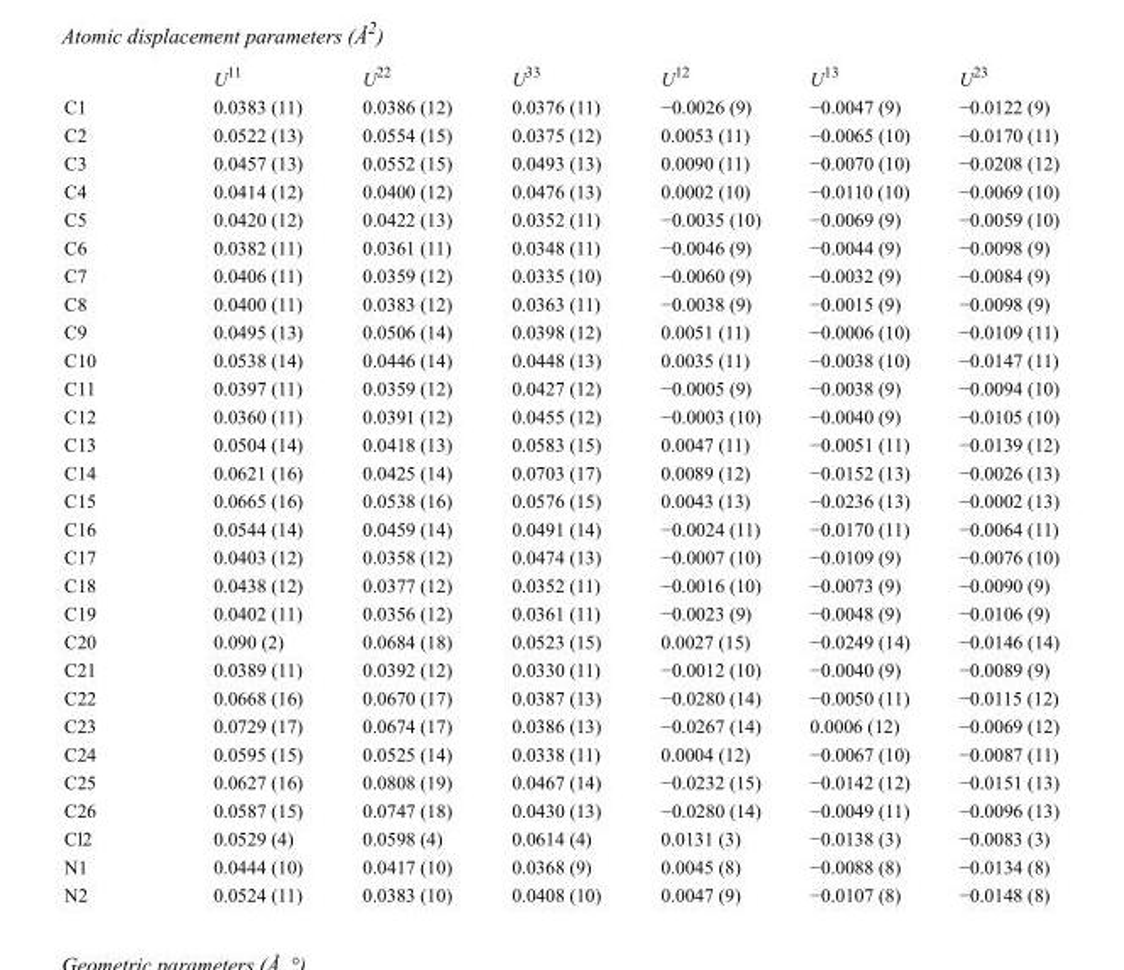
<table><thead><tr><td></td><td>U<sup>11</sup></td><td>U<sup>22</sup></td><td>U<sup>33</sup></td><td>U<sup>12</sup></td><td>U<sup>13</sup></td><td>U<sup>23</sup></td></tr></thead><tbody><tr><td>C1</td><td>0.0383 (11)</td><td>0.0386 (12)</td><td>0.0376 (11)</td><td>−0.0026 (9)</td><td>−0.0047 (9)</td><td>−0.0122 (9)</td></tr><tr><td>C2</td><td>0.0522 (13)</td><td>0.0554 (15)</td><td>0.0375 (12)</td><td>0.0053 (11)</td><td>−0.0065 (10)</td><td>−0.0170 (11)</td></tr><tr><td>C3</td><td>0.0457 (13)</td><td>0.0552 (15)</td><td>0.0493 (13)</td><td>0.0090 (11)</td><td>−0.0070 (10)</td><td>−0.0208 (12)</td></tr><tr><td>C4</td><td>0.0414 (12)</td><td>0.0400 (12)</td><td>0.0476 (13)</td><td>0.0002 (10)</td><td>−0.0110 (10)</td><td>−0.0069 (10)</td></tr><tr><td>C5</td><td>0.0420 (12)</td><td>0.0422 (13)</td><td>0.0352 (11)</td><td>−0.0035 (10)</td><td>−0.0069 (9)</td><td>−0.0059 (10)</td></tr><tr><td>C6</td><td>0.0382 (11)</td><td>0.0361 (11)</td><td>0.0348 (11)</td><td>−0.0046 (9)</td><td>−0.0044 (9)</td><td>−0.0098 (9)</td></tr><tr><td>C7</td><td>0.0406 (11)</td><td>0.0359 (12)</td><td>0.0335 (10)</td><td>−0.0060 (9)</td><td>−0.0032 (9)</td><td>−0.0084 (9)</td></tr><tr><td>C8</td><td>0.0400 (11)</td><td>0.0383 (12)</td><td>0.0363 (11)</td><td>−0.0038 (9)</td><td>−0.0015 (9)</td><td>−0.0098 (9)</td></tr><tr><td>C9</td><td>0.0495 (13)</td><td>0.0506 (14)</td><td>0.0398 (12)</td><td>0.0051 (11)</td><td>−0.0006 (10)</td><td>−0.0109 (11)</td></tr><tr><td>C10</td><td>0.0538 (14)</td><td>0.0446 (14)</td><td>0.0448 (13)</td><td>0.0035 (11)</td><td>−0.0038 (10)</td><td>−0.0147 (11)</td></tr><tr><td>C11</td><td>0.0397 (11)</td><td>0.0359 (12)</td><td>0.0427 (12)</td><td>−0.0005 (9)</td><td>−0.0038 (9)</td><td>−0.0094 (10)</td></tr><tr><td>C12</td><td>0.0360 (11)</td><td>0.0391 (12)</td><td>0.0455 (12)</td><td>−0.0003 (10)</td><td>−0.0040 (9)</td><td>−0.0105 (10)</td></tr><tr><td>C13</td><td>0.0504 (14)</td><td>0.0418 (13)</td><td>0.0583 (15)</td><td>0.0047 (11)</td><td>−0.0051 (11)</td><td>−0.0139 (12)</td></tr><tr><td>C14</td><td>0.0621 (16)</td><td>0.0425 (14)</td><td>0.0703 (17)</td><td>0.0089 (12)</td><td>−0.0152 (13)</td><td>−0.0026 (13)</td></tr><tr><td>C15</td><td>0.0665 (16)</td><td>0.0538 (16)</td><td>0.0576 (15)</td><td>0.0043 (13)</td><td>−0.0236 (13)</td><td>−0.0002 (13)</td></tr><tr><td>C16</td><td>0.0544 (14)</td><td>0.0459 (14)</td><td>0.0491 (14)</td><td>−0.0024 (11)</td><td>−0.0170 (11)</td><td>−0.0064 (11)</td></tr><tr><td>C17</td><td>0.0403 (12)</td><td>0.0358 (12)</td><td>0.0474 (13)</td><td>−0.0007 (10)</td><td>−0.0109 (9)</td><td>−0.0076 (10)</td></tr><tr><td>C18</td><td>0.0438 (12)</td><td>0.0377 (12)</td><td>0.0352 (11)</td><td>−0.0016 (10)</td><td>−0.0073 (9)</td><td>−0.0090 (9)</td></tr><tr><td>C19</td><td>0.0402 (11)</td><td>0.0356 (12)</td><td>0.0361 (11)</td><td>−0.0023 (9)</td><td>−0.0048 (9)</td><td>−0.0106 (9)</td></tr><tr><td>C20</td><td>0.090 (2)</td><td>0.0684 (18)</td><td>0.0523 (15)</td><td>0.0027 (15)</td><td>−0.0249 (14)</td><td>−0.0146 (14)</td></tr><tr><td>C21</td><td>0.0389 (11)</td><td>0.0392 (12)</td><td>0.0330 (11)</td><td>−0.0012 (10)</td><td>−0.0040 (9)</td><td>−0.0089 (9)</td></tr><tr><td>C22</td><td>0.0668 (16)</td><td>0.0670 (17)</td><td>0.0387 (13)</td><td>−0.0280 (14)</td><td>−0.0050 (11)</td><td>−0.0115 (12)</td></tr><tr><td>C23</td><td>0.0729 (17)</td><td>0.0674 (17)</td><td>0.0386 (13)</td><td>−0.0267 (14)</td><td>0.0006 (12)</td><td>−0.0069 (12)</td></tr><tr><td>C24</td><td>0.0595 (15)</td><td>0.0525 (14)</td><td>0.0338 (11)</td><td>0.0004 (12)</td><td>−0.0067 (10)</td><td>−0.0087 (11)</td></tr><tr><td>C25</td><td>0.0627 (16)</td><td>0.0808 (19)</td><td>0.0467 (14)</td><td>−0.0232 (15)</td><td>−0.0142 (12)</td><td>−0.0151 (13)</td></tr><tr><td>C26</td><td>0.0587 (15)</td><td>0.0747 (18)</td><td>0.0430 (13)</td><td>−0.0280 (14)</td><td>−0.0049 (11)</td><td>−0.0096 (13)</td></tr><tr><td>Cl2</td><td>0.0529 (4)</td><td>0.0598 (4)</td><td>0.0614 (4)</td><td>0.0131 (3)</td><td>−0.0138 (3)</td><td>−0.0083 (3)</td></tr><tr><td>N1</td><td>0.0444 (10)</td><td>0.0417 (10)</td><td>0.0368 (9)</td><td>0.0045 (8)</td><td>−0.0088 (8)</td><td>−0.0134 (8)</td></tr><tr><td>N2</td><td>0.0524 (11)</td><td>0.0383 (10)</td><td>0.0408 (10)</td><td>0.0047 (9)</td><td>−0.0107 (8)</td><td>−0.0148 (8)</td></tr></tbody></table>